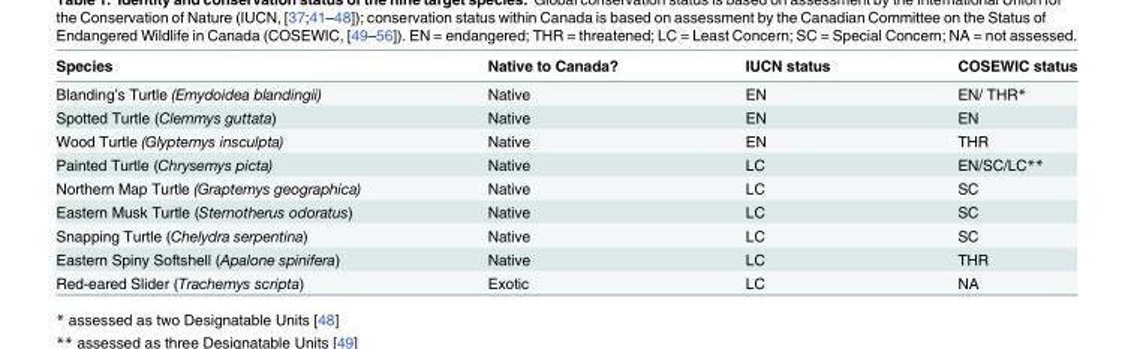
<table><thead><tr><td>Species</td><td>Native to Canada?</td><td>IUCN status</td><td>COSEWIC status</td></tr></thead><tbody><tr><td>Blanding’s Turtle (Emydoidea blandingii)</td><td>Native</td><td>EN</td><td>EN/ THR*</td></tr><tr><td>Spotted Turtle (Clemmys guttata)</td><td>Native</td><td>EN</td><td>EN</td></tr><tr><td>Wood Turtle (Glyptemys insculpta)</td><td>Native</td><td>EN</td><td>THR</td></tr><tr><td>Painted Turtle (Chrysemys picta)</td><td>Native</td><td>LC</td><td>EN/SC/LC**</td></tr><tr><td>Northern Map Turtle (Graptemys geographica)</td><td>Native</td><td>LC</td><td>SC</td></tr><tr><td>Eastern Musk Turtle (Sternotherus odoratus)</td><td>Native</td><td>LC</td><td>SC</td></tr><tr><td>Snapping Turtle (Chelydra serpentina)</td><td>Native</td><td>LC</td><td>SC</td></tr><tr><td>Eastern Spiny Softshell (Apalone spinifera)</td><td>Native</td><td>LC</td><td>THR</td></tr><tr><td>Red-eared Slider (Trachemys scripta)</td><td>Exotic</td><td>LC</td><td>NA</td></tr></tbody></table>